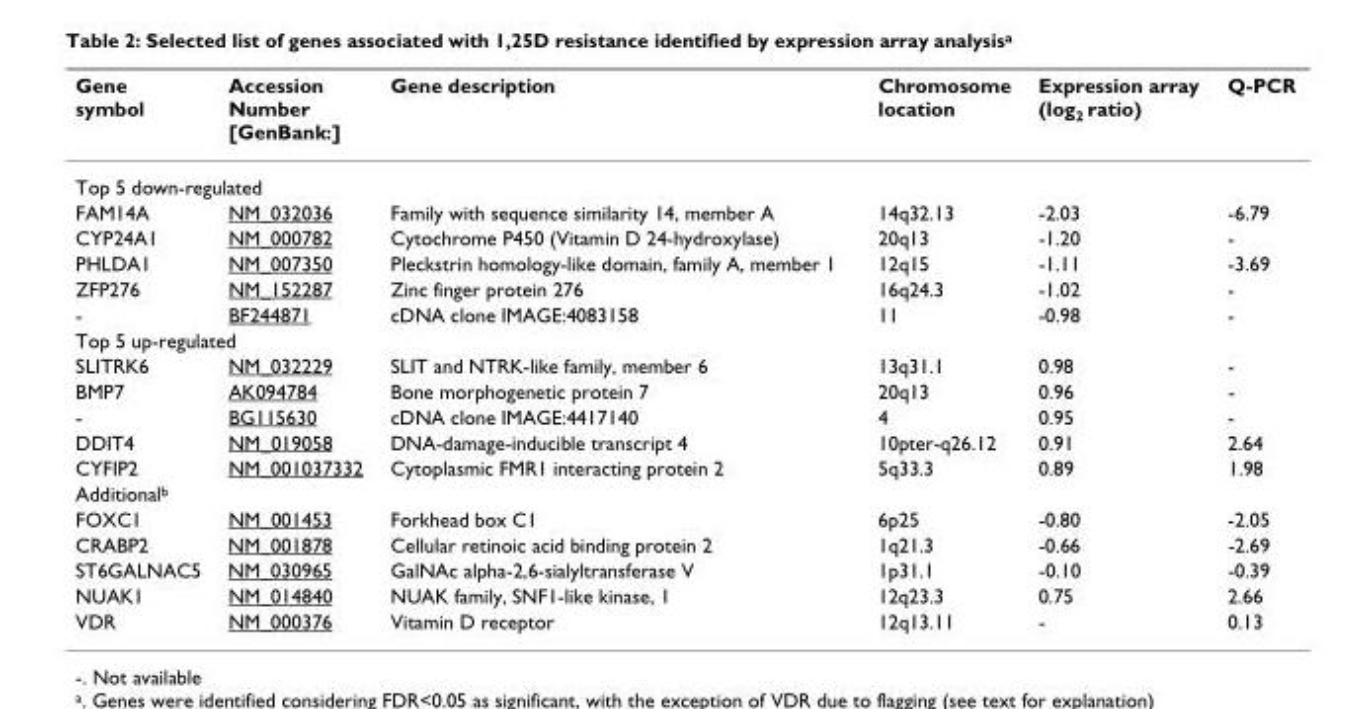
<table><thead><tr><td>Gene symbol</td><td>Accession Number [GenBank:]</td><td>Gene description</td><td>Chromosome location</td><td>Expression array (log<sub>2</sub> ratio)</td><td>Q-PCR</td></tr></thead><tbody><tr><td colspan="6">Top 5 down-regulated</td></tr><tr><td>FAM14A</td><td>NM_032036</td><td>Family with sequence similarity 14, member A</td><td>14q32.13</td><td>-2.03</td><td>-6.79</td></tr><tr><td>CYP24A1</td><td>NM_000782</td><td>Cytochrome P450 (Vitamin D 24-hydroxylase)</td><td>20q13</td><td>-1.20</td><td>-</td></tr><tr><td>PHLDA1</td><td>NM_007350</td><td>Pleckstrin homology-like domain, family A, member 1</td><td>12q15</td><td>-1.11</td><td>-3.69</td></tr><tr><td>ZFP276</td><td>NM_152287</td><td>Zinc finger protein 276</td><td>16q24.3</td><td>-1.02</td><td>-</td></tr><tr><td>-</td><td>BF244871</td><td>cDNA clone IMAGE:4083158</td><td>11</td><td>-0.98</td><td>-</td></tr><tr><td colspan="6">Top 5 up-regulated</td></tr><tr><td>SLITRK6</td><td>NM_032229</td><td>SLIT and NTRK-like family, member 6</td><td>13q31.1</td><td>0.98</td><td>-</td></tr><tr><td>BMP7</td><td>AK094784</td><td>Bone morphogenetic protein 7</td><td>20q13</td><td>0.96</td><td>-</td></tr><tr><td>-</td><td>BG115630</td><td>cDNA clone IMAGE:4417140</td><td>4</td><td>0.95</td><td>-</td></tr><tr><td>DDIT4</td><td>NM_019058</td><td>DNA-damage-inducible transcript 4</td><td>10pter-q26.12</td><td>0.91</td><td>2.64</td></tr><tr><td>CYFIP2</td><td>NM_001037332</td><td>Cytoplasmic FMR1 interacting protein 2</td><td>5q33.3</td><td>0.89</td><td>1.98</td></tr><tr><td colspan="6">Additional<sup>b</sup></td></tr><tr><td>FOXC1</td><td>NM_001453</td><td>Forkhead box C1</td><td>6p25</td><td>-0.80</td><td>-2.05</td></tr><tr><td>CRABP2</td><td>NM_001878</td><td>Cellular retinoic acid binding protein 2</td><td>1q21.3</td><td>-0.66</td><td>-2.69</td></tr><tr><td>ST6GALNAC5</td><td>NM_030965</td><td>GalNAc alpha-2,6-sialyltransferase V</td><td>1p31.1</td><td>-0.10</td><td>-0.39</td></tr><tr><td>NUAK1</td><td>NM_014840</td><td>NUAK family, SNF1-like kinase, 1</td><td>12q23.3</td><td>0.75</td><td>2.66</td></tr><tr><td>VDR</td><td>NM_000376</td><td>Vitamin D receptor</td><td>12q13.11</td><td>-</td><td>0.13</td></tr></tbody></table>